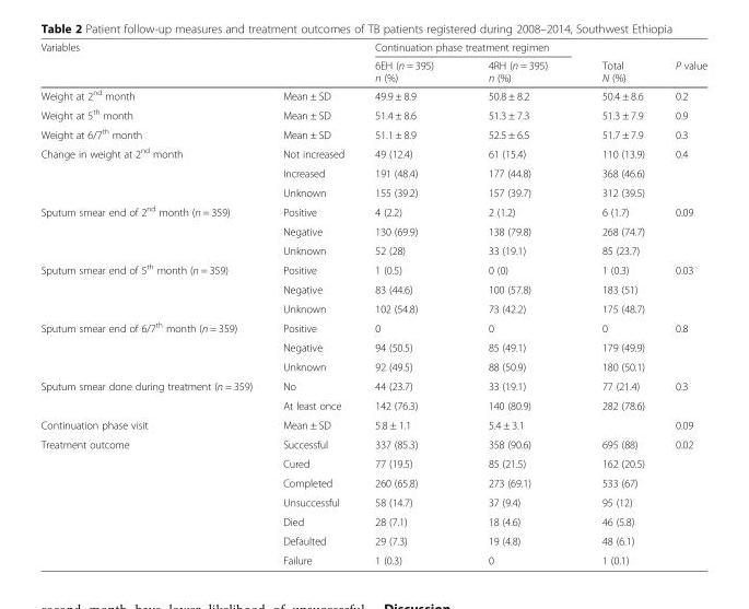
<table><thead><tr><td rowspan="2" colspan="2">Variables</td><td colspan="2">Continuation phase treatment regimen</td><td rowspan="3">Total N (%) 50.4 ± 8.6</td><td rowspan="3">P value 0.2</td></tr><tr><td rowspan="2">6EH (n = 395) n (%) 49.9 ± 8.9</td><td rowspan="2">4RH (n = 395) n (%) 50.8 ± 8.2</td></tr><tr><td>Weight at 2<sup>nd</sup> month</td><td>Mean ± SD</td></tr></thead><tbody><tr><td>Weight at 5<sup>th</sup> month</td><td>Mean ± SD</td><td>51.4 ± 8.6</td><td>51.3 ± 7.3</td><td>51.3 ± 7.9</td><td>0.9</td></tr><tr><td>Weight at 6/7<sup>th</sup> month</td><td>Mean ± SD</td><td>51.1 ± 8.9</td><td>52.5 ± 6.5</td><td>51.7 ± 7.9</td><td>0.3</td></tr><tr><td rowspan="3">Change in weight at 2<sup>nd</sup> month</td><td>Not increased</td><td>49 (12.4)</td><td>61 (15.4)</td><td>110 (13.9)</td><td rowspan="3">0.4</td></tr><tr><td>Increased</td><td>191 (48.4)</td><td>177 (44.8)</td><td>368 (46.6)</td></tr><tr><td>Unknown</td><td>155 (39.2)</td><td>157 (39.7)</td><td>312 (39.5)</td></tr><tr><td rowspan="3">Sputum smear end of 2<sup>nd</sup> month (n = 359)</td><td>Positive</td><td>4 (2.2)</td><td>2 (1.2)</td><td>6 (1.7)</td><td rowspan="3">0.09</td></tr><tr><td>Negative</td><td>130 (69.9)</td><td>138 (79.8)</td><td>268 (74.7)</td></tr><tr><td>Unknown</td><td>52 (28)</td><td>33 (19.1)</td><td>85 (23.7)</td></tr><tr><td rowspan="3">Sputum smear end of 5<sup>th</sup> month (n = 359)</td><td>Positive</td><td>1 (0.5)</td><td>0 (0)</td><td>1 (0.3)</td><td rowspan="3">0.03</td></tr><tr><td>Negative</td><td>83 (44.6)</td><td>100 (57.8)</td><td>183 (51)</td></tr><tr><td>Unknown</td><td>102 (54.8)</td><td>73 (42.2)</td><td>175 (48.7)</td></tr><tr><td rowspan="3">Sputum smear end of 6/7<sup>th</sup> month (n = 359)</td><td>Positive</td><td>0</td><td>0</td><td>0</td><td rowspan="3">0.8</td></tr><tr><td>Negative</td><td>94 (50.5)</td><td>85 (49.1)</td><td>179 (49.9)</td></tr><tr><td>Unknown</td><td>92 (49.5)</td><td>88 (50.9)</td><td>180 (50.1)</td></tr><tr><td rowspan="2">Sputum smear done during treatment (n = 359)</td><td>No</td><td>44 (23.7)</td><td>33 (19.1)</td><td>77 (21.4)</td><td rowspan="2">0.3</td></tr><tr><td>At least once</td><td>142 (76.3)</td><td>140 (80.9)</td><td>282 (78.6)</td></tr><tr><td>Continuation phase visit</td><td>Mean ± SD</td><td>5.8 ± 1.1</td><td>5.4 ± 3.1</td><td></td><td>0.09</td></tr><tr><td rowspan="7">Treatment outcome</td><td>Successful</td><td>337 (85.3)</td><td>358 (90.6)</td><td>695 (88)</td><td rowspan="7">0.02</td></tr><tr><td>Cured</td><td>77 (19.5)</td><td>85 (21.5)</td><td>162 (20.5)</td></tr><tr><td>Completed</td><td>260 (65.8)</td><td>273 (69.1)</td><td>533 (67)</td></tr><tr><td>Unsuccessful</td><td>58 (14.7)</td><td>37 (9.4)</td><td>95 (12)</td></tr><tr><td>Died</td><td>28 (7.1)</td><td>18 (4.6)</td><td>46 (5.8)</td></tr><tr><td>Defaulted</td><td>29 (7.3)</td><td>19 (4.8)</td><td>48 (6.1)</td></tr><tr><td>Failure</td><td>1 (0.3)</td><td>0</td><td>1 (0.1)</td></tr></tbody></table>